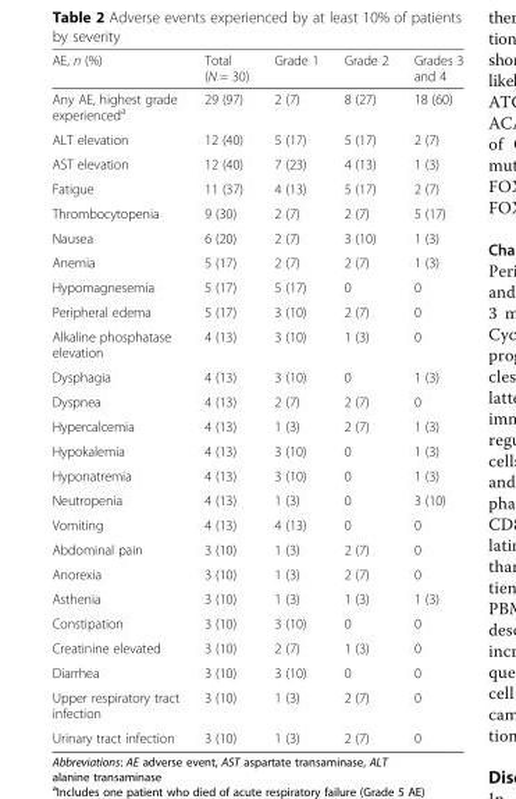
<table><thead><tr><td>AE, n (%)</td><td>Total (N = 30)</td><td>Grade 1</td><td>Grade 2</td><td>Grades 3 and 4</td></tr></thead><tbody><tr><td>Any AE, highest grade experienced<sup>a</sup></td><td>29 (97)</td><td>2 (7)</td><td>8 (27)</td><td>18 (60)</td></tr><tr><td>ALT elevation</td><td>12 (40)</td><td>5 (17)</td><td>5 (17)</td><td>2 (7)</td></tr><tr><td>AST elevation</td><td>12 (40)</td><td>7 (23)</td><td>4 (13)</td><td>1 (3)</td></tr><tr><td>Fatigue</td><td>11 (37)</td><td>4 (13)</td><td>5 (17)</td><td>2 (7)</td></tr><tr><td>Thrombocytopenia</td><td>9 (30)</td><td>2 (7)</td><td>2 (7)</td><td>5 (17)</td></tr><tr><td>Nausea</td><td>6 (20)</td><td>2 (7)</td><td>3 (10)</td><td>1 (3)</td></tr><tr><td>Anemia</td><td>5 (17)</td><td>2 (7)</td><td>2 (7)</td><td>1 (3)</td></tr><tr><td>Hypomagnesemia</td><td>5 (17)</td><td>5 (17)</td><td>0</td><td>0</td></tr><tr><td>Peripheral edema</td><td>5 (17)</td><td>3 (10)</td><td>2 (7)</td><td>0</td></tr><tr><td>Alkaline phosphatase elevation</td><td>4 (13)</td><td>3 (10)</td><td>1 (3)</td><td>0</td></tr><tr><td>Dysphagia</td><td>4 (13)</td><td>3 (10)</td><td>0</td><td>1 (3)</td></tr><tr><td>Dyspnea</td><td>4 (13)</td><td>2 (7)</td><td>2 (7)</td><td>0</td></tr><tr><td>Hypercalcemia</td><td>4 (13)</td><td>1 (3)</td><td>2 (7)</td><td>1 (3)</td></tr><tr><td>Hypokalemia</td><td>4 (13)</td><td>3 (10)</td><td>0</td><td>1 (3)</td></tr><tr><td>Hyponatremia</td><td>4 (13)</td><td>3 (10)</td><td>0</td><td>1 (3)</td></tr><tr><td>Neutropenia</td><td>4 (13)</td><td>1 (3)</td><td>0</td><td>3 (10)</td></tr><tr><td>Vomiting</td><td>4 (13)</td><td>4 (13)</td><td>0</td><td>0</td></tr><tr><td>Abdominal pain</td><td>3 (10)</td><td>1 (3)</td><td>2 (7)</td><td>0</td></tr><tr><td>Anorexia</td><td>3 (10)</td><td>1 (3)</td><td>2 (7)</td><td>0</td></tr><tr><td>Asthenia</td><td>3 (10)</td><td>1 (3)</td><td>1 (3)</td><td>1 (3)</td></tr><tr><td>Constipation</td><td>3 (10)</td><td>3 (10)</td><td>0</td><td>0</td></tr><tr><td>Creatinine elevated</td><td>3 (10)</td><td>2 (7)</td><td>1 (3)</td><td>0</td></tr><tr><td>Diarrhea</td><td>3 (10)</td><td>3 (10)</td><td>0</td><td>0</td></tr><tr><td>Upper respiratory tract infection</td><td>3 (10)</td><td>1 (3)</td><td>2 (7)</td><td>0</td></tr><tr><td>Urinary tract infection</td><td>3 (10)</td><td>1 (3)</td><td>2 (7)</td><td>0</td></tr></tbody></table>